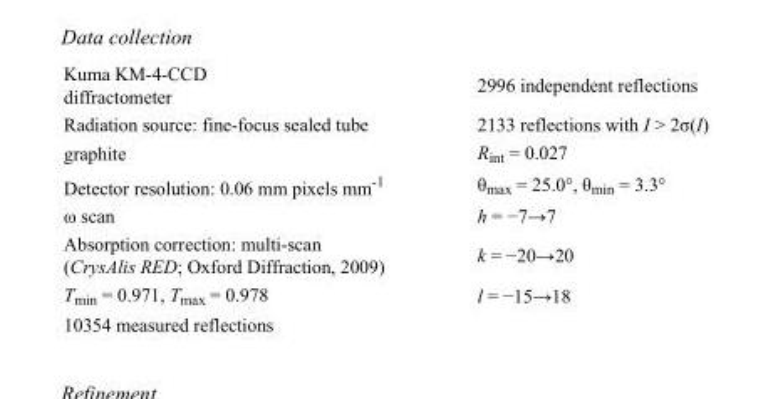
<table><tbody><tr><td>Kuma KM-4-CCD diffractometer</td><td>2996 independent reflections</td></tr><tr><td>Radiation source: fine-focus sealed tube</td><td>2133 reflections with I &gt; 2σ(I)</td></tr><tr><td>graphite</td><td>R<sub>int</sub> = 0.027</td></tr><tr><td>Detector resolution: 0.06 mm pixels mm<sup>-1</sup></td><td>θ<sub>max</sub> = 25.0°, θ<sub>min</sub> = 3.3°</td></tr><tr><td>ω scan</td><td>h = −7→7</td></tr><tr><td>Absorption correction: multi-scan (CrysAlis RED; Oxford Diffraction, 2009)</td><td>k = −20→20</td></tr><tr><td>T<sub>min</sub> = 0.971, T<sub>max</sub> = 0.978</td><td>l = −15→18</td></tr><tr><td>10354 measured reflections</td><td></td></tr></tbody></table>